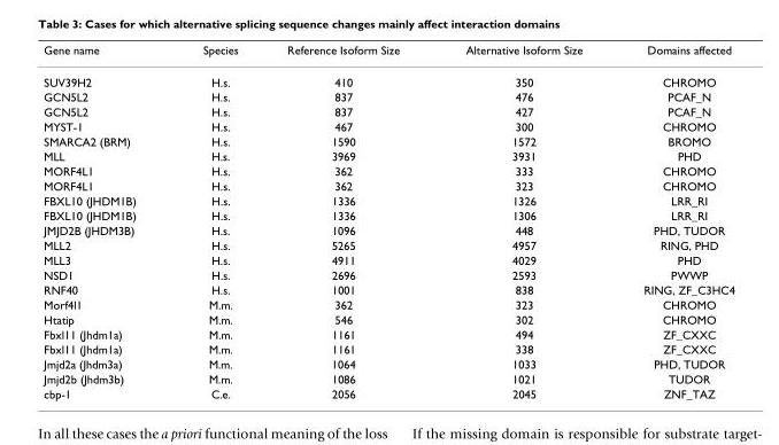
<table><thead><tr><td>Gene name</td><td>Species</td><td>Reference Isoform Size</td><td>Alternative Isoform Size</td><td>Domains affected</td></tr></thead><tbody><tr><td>SUV39H2</td><td>H.s.</td><td>410</td><td>350</td><td>CHROMO</td></tr><tr><td>GCN5L2</td><td>H.s.</td><td>837</td><td>476</td><td>PCAF_N</td></tr><tr><td>GCN5L2</td><td>H.s.</td><td>837</td><td>427</td><td>PCAF_N</td></tr><tr><td>MYST-1</td><td>H.s.</td><td>467</td><td>300</td><td>CHROMO</td></tr><tr><td>SMARCA2 (BRM)</td><td>H.s.</td><td>1590</td><td>1572</td><td>BROMO</td></tr><tr><td>MLL</td><td>H.s.</td><td>3969</td><td>3931</td><td>PHD</td></tr><tr><td>MORF4L1</td><td>H.s.</td><td>362</td><td>333</td><td>CHROMO</td></tr><tr><td>MORF4L1</td><td>H.s.</td><td>362</td><td>323</td><td>CHROMO</td></tr><tr><td>FBXL10 (JHDM1B)</td><td>H.s.</td><td>1336</td><td>1326</td><td>LRR_RI</td></tr><tr><td>FBXL10 (JHDM1B)</td><td>H.s.</td><td>1336</td><td>1306</td><td>LRR_RI</td></tr><tr><td>JMJD2B (JHDM3B)</td><td>H.s.</td><td>1096</td><td>448</td><td>PHD, TUDOR</td></tr><tr><td>MLL2</td><td>H.s.</td><td>5265</td><td>4957</td><td>RING, PHD</td></tr><tr><td>MLL3</td><td>H.s.</td><td>4911</td><td>4029</td><td>PHD</td></tr><tr><td>NSD1</td><td>H.s.</td><td>2696</td><td>2593</td><td>PWWP</td></tr><tr><td>RNF40</td><td>H.s.</td><td>1001</td><td>838</td><td>RING, ZF_C3HC4</td></tr><tr><td>Morf4l1</td><td>M.m.</td><td>362</td><td>323</td><td>CHROMO</td></tr><tr><td>Htatip</td><td>M.m.</td><td>546</td><td>302</td><td>CHROMO</td></tr><tr><td>Fbxl11 (Jhdm1a)</td><td>M.m.</td><td>1161</td><td>494</td><td>ZF_CXXC</td></tr><tr><td>Fbxl11 (Jhdm1a)</td><td>M.m.</td><td>1161</td><td>338</td><td>ZF_CXXC</td></tr><tr><td>Jmjd2a (Jhdm3a)</td><td>M.m.</td><td>1064</td><td>1033</td><td>PHD, TUDOR</td></tr><tr><td>Jmjd2b (Jhdm3b)</td><td>M.m.</td><td>1086</td><td>1021</td><td>TUDOR</td></tr><tr><td>cbp-1</td><td>C.e.</td><td>2056</td><td>2045</td><td>ZNF_TAZ</td></tr></tbody></table>